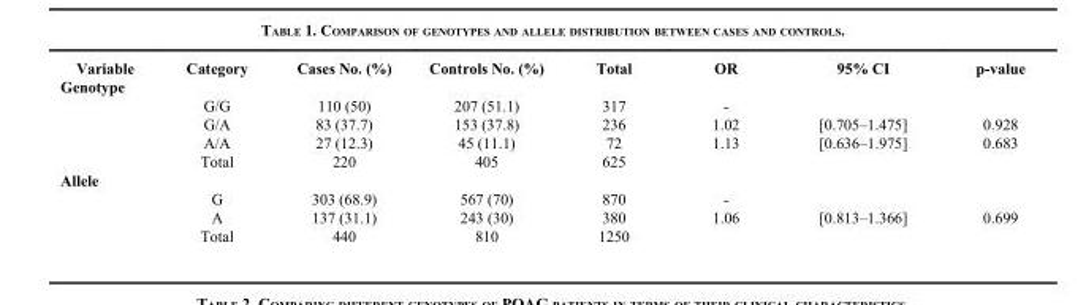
<table><thead><tr><td>Variable</td><td>Category</td><td>Cases No. (%)</td><td>Controls No. (%)</td><td>Total</td><td>OR</td><td>95% CI</td><td>p-value</td></tr></thead><tbody><tr><td colspan="8">Genotype</td></tr><tr><td></td><td>G/G</td><td>110 (50)</td><td>207 (51.1)</td><td>317</td><td>-</td><td></td><td></td></tr><tr><td></td><td>G/A</td><td>83 (37.7)</td><td>153 (37.8)</td><td>236</td><td>1.02</td><td>[0.705–1.475]</td><td>0.928</td></tr><tr><td></td><td>A/A</td><td>27 (12.3)</td><td>45 (11.1)</td><td>72</td><td>1.13</td><td>[0.636–1.975]</td><td>0.683</td></tr><tr><td></td><td>Total</td><td>220</td><td>405</td><td>625</td><td></td><td></td><td></td></tr><tr><td colspan="8">Allele</td></tr><tr><td></td><td>G</td><td>303 (68.9)</td><td>567 (70)</td><td>870</td><td>-</td><td></td><td></td></tr><tr><td></td><td>A</td><td>137 (31.1)</td><td>243 (30)</td><td>380</td><td>1.06</td><td>[0.813–1.366]</td><td>0.699</td></tr><tr><td></td><td>Total</td><td>440</td><td>810</td><td>1250</td><td></td><td></td><td></td></tr></tbody></table>